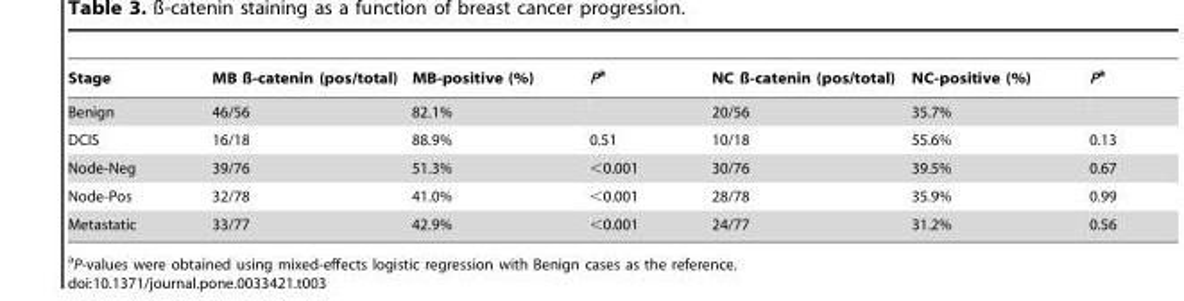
<table><thead><tr><td>Stage</td><td>MB ß-catenin (pos/total)</td><td>MB-positive (%)</td><td>Pa</td><td>NC ß-catenin (pos/total)</td><td>NC-positive (%)</td><td>Pa</td></tr></thead><tbody><tr><td>Benign</td><td>46/56</td><td>82.1%</td><td></td><td>20/56</td><td>35.7%</td><td></td></tr><tr><td>DCIS</td><td>16/18</td><td>88.9%</td><td>0.51</td><td>10/18</td><td>55.6%</td><td>0.13</td></tr><tr><td>Node-Neg</td><td>39/76</td><td>51.3%</td><td>&lt;0.001</td><td>30/76</td><td>39.5%</td><td>0.67</td></tr><tr><td>Node-Pos</td><td>32/78</td><td>41.0%</td><td>&lt;0.001</td><td>28/78</td><td>35.9%</td><td>0.99</td></tr><tr><td>Metastatic</td><td>33/77</td><td>42.9%</td><td>&lt;0.001</td><td>24/77</td><td>31.2%</td><td>0.56</td></tr></tbody></table>